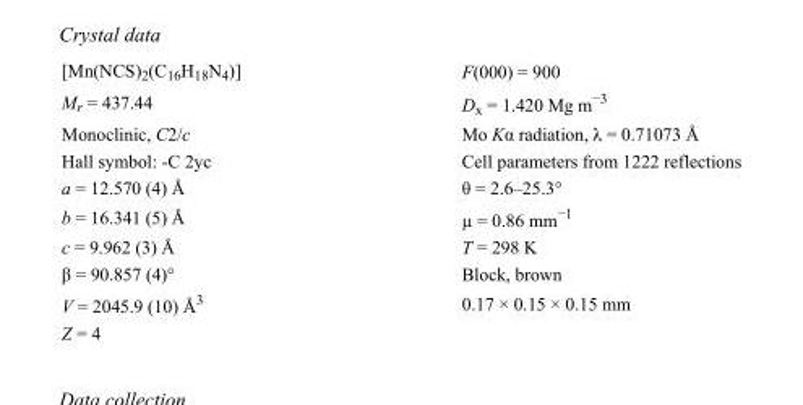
<table><tbody><tr><td>[Mn(NCS)<sub>2</sub>(C<sub>16</sub>H<sub>18</sub>N<sub>4</sub>)]</td><td>F(000) = 900</td></tr><tr><td>M<sub>r</sub> = 437.44</td><td>D<sub>x</sub> = 1.420 Mg m<sup>−3</sup></td></tr><tr><td>Monoclinic, C2/c</td><td>Mo Kα radiation, λ = 0.71073 Å</td></tr><tr><td>Hall symbol: -C 2yc</td><td>Cell parameters from 1222 reflections</td></tr><tr><td>a = 12.570 (4) Å</td><td>θ = 2.6–25.3°</td></tr><tr><td>b = 16.341 (5) Å</td><td>µ = 0.86 mm<sup>−1</sup></td></tr><tr><td>c = 9.962 (3) Å</td><td>T = 298 K</td></tr><tr><td>β = 90.857 (4)°</td><td>Block, brown</td></tr><tr><td>V = 2045.9 (10) Å<sup>3</sup></td><td>0.17 × 0.15 × 0.15 mm</td></tr><tr><td>Z = 4</td><td></td></tr></tbody></table>